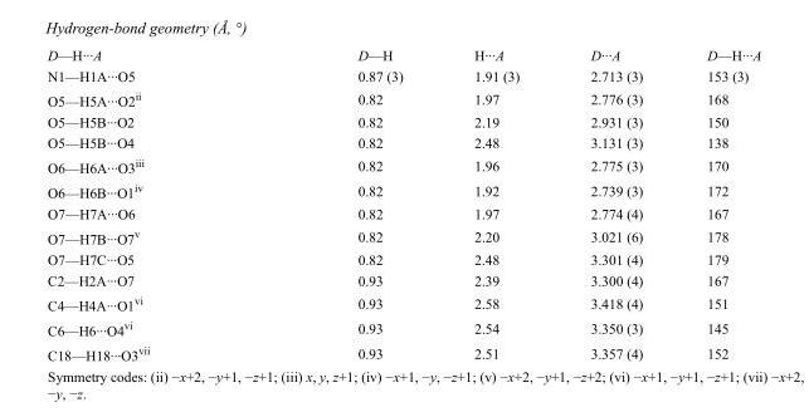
<table><tbody><tr><td>D—H···A</td><td>D—H</td><td>H···A</td><td>D···A</td><td>D—H···A</td></tr><tr><td>N1—H1A···O5</td><td>0.87 (3)</td><td>1.91 (3)</td><td>2.713 (3)</td><td>153 (3)</td></tr><tr><td>O5—H5A···O2<sup>ii</sup></td><td>0.82</td><td>1.97</td><td>2.776 (3)</td><td>168</td></tr><tr><td>O5—H5B···O2</td><td>0.82</td><td>2.19</td><td>2.931 (3)</td><td>150</td></tr><tr><td>O5—H5B···O4</td><td>0.82</td><td>2.48</td><td>3.131 (3)</td><td>138</td></tr><tr><td>O6—H6A···O3<sup>iii</sup></td><td>0.82</td><td>1.96</td><td>2.775 (3)</td><td>170</td></tr><tr><td>O6—H6B···O1<sup>iv</sup></td><td>0.82</td><td>1.92</td><td>2.739 (3)</td><td>172</td></tr><tr><td>O7—H7A···O6</td><td>0.82</td><td>1.97</td><td>2.774 (4)</td><td>167</td></tr><tr><td>O7—H7B···O7<sup>v</sup></td><td>0.82</td><td>2.20</td><td>3.021 (6)</td><td>178</td></tr><tr><td>O7—H7C···O5</td><td>0.82</td><td>2.48</td><td>3.301 (4)</td><td>179</td></tr><tr><td>C2—H2A···O7</td><td>0.93</td><td>2.39</td><td>3.300 (4)</td><td>167</td></tr><tr><td>C4—H4A···O1<sup>vi</sup></td><td>0.93</td><td>2.58</td><td>3.418 (4)</td><td>151</td></tr><tr><td>C6—H6···O4<sup>vi</sup></td><td>0.93</td><td>2.54</td><td>3.350 (3)</td><td>145</td></tr><tr><td>C18—H18···O3<sup>vii</sup></td><td>0.93</td><td>2.51</td><td>3.357 (4)</td><td>152</td></tr></tbody></table>